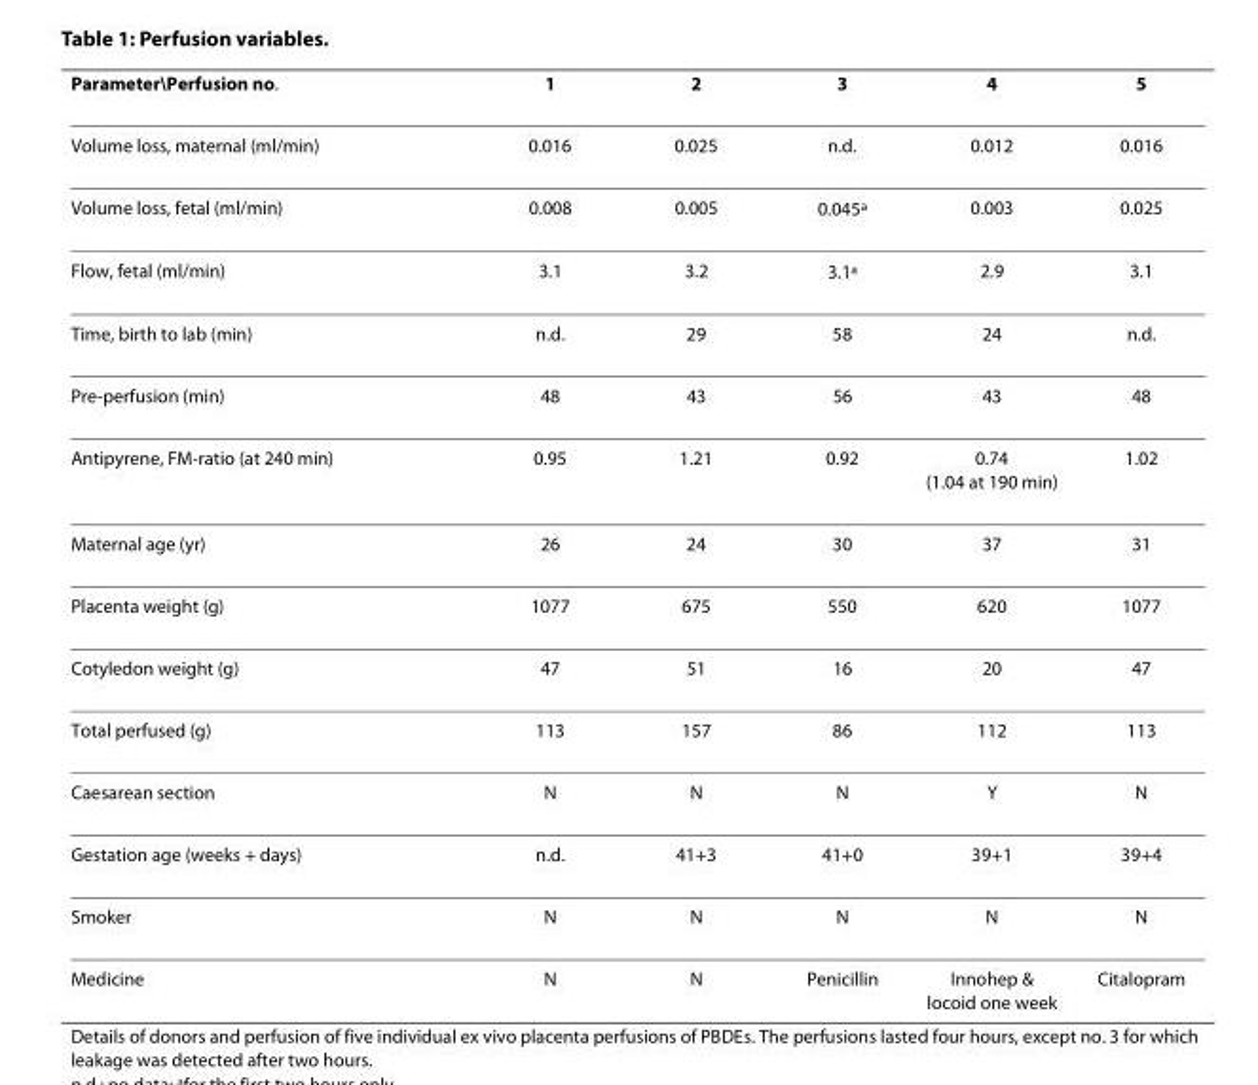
<table><thead><tr><td>Parameter\Perfusion no.</td><td>1</td><td>2</td><td>3</td><td>4</td><td>5</td></tr></thead><tbody><tr><td>Volume loss, maternal (ml/min)</td><td>0.016</td><td>0.025</td><td>n.d.</td><td>0.012</td><td>0.016</td></tr><tr><td>Volume loss, fetal (ml/min)</td><td>0.008</td><td>0.005</td><td>0.045<sup>a</sup></td><td>0.003</td><td>0.025</td></tr><tr><td>Flow, fetal (ml/min)</td><td>3.1</td><td>3.2</td><td>3.1<sup>a</sup></td><td>2.9</td><td>3.1</td></tr><tr><td>Time, birth to lab (min)</td><td>n.d.</td><td>29</td><td>58</td><td>24</td><td>n.d.</td></tr><tr><td>Pre-perfusion (min)</td><td>48</td><td>43</td><td>56</td><td>43</td><td>48</td></tr><tr><td>Antipyrene, FM-ratio (at 240 min)</td><td>0.95</td><td>1.21</td><td>0.92</td><td>0.74 (1.04 at 190 min)</td><td>1.02</td></tr><tr><td>Maternal age (yr)</td><td>26</td><td>24</td><td>30</td><td>37</td><td>31</td></tr><tr><td>Placenta weight (g)</td><td>1077</td><td>675</td><td>550</td><td>620</td><td>1077</td></tr><tr><td>Cotyledon weight (g)</td><td>47</td><td>51</td><td>16</td><td>20</td><td>47</td></tr><tr><td>Total perfused (g)</td><td>113</td><td>157</td><td>86</td><td>112</td><td>113</td></tr><tr><td>Caesarean section</td><td>N</td><td>N</td><td>N</td><td>Y</td><td>N</td></tr><tr><td>Gestation age (weeks + days)</td><td>n.d.</td><td>41+3</td><td>41+0</td><td>39+1</td><td>39+4</td></tr><tr><td>Smoker</td><td>N</td><td>N</td><td>N</td><td>N</td><td>N</td></tr><tr><td>Medicine</td><td>N</td><td>N</td><td>Penicillin</td><td>Innohep &amp; locoid one week</td><td>Citalopram</td></tr></tbody></table>